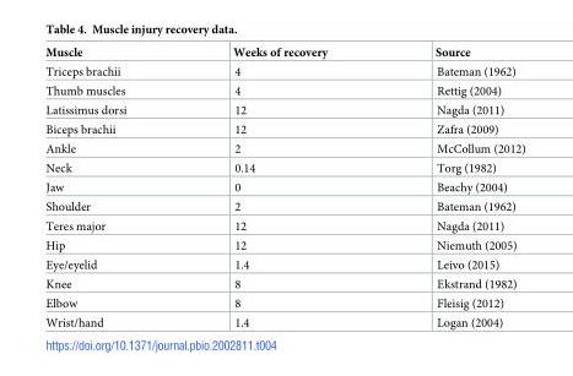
<table><thead><tr><td>Muscle</td><td>Weeks of recovery</td><td>Source</td></tr></thead><tbody><tr><td>Triceps brachii</td><td>4</td><td>Bateman (1962)</td></tr><tr><td>Thumb muscles</td><td>4</td><td>Rettig (2004)</td></tr><tr><td>Latissimus dorsi</td><td>12</td><td>Nagda (2011)</td></tr><tr><td>Biceps brachii</td><td>12</td><td>Zafra (2009)</td></tr><tr><td>Ankle</td><td>2</td><td>McCollum (2012)</td></tr><tr><td>Neck</td><td>0.14</td><td>Torg (1982)</td></tr><tr><td>Jaw</td><td>0</td><td>Beachy (2004)</td></tr><tr><td>Shoulder</td><td>2</td><td>Bateman (1962)</td></tr><tr><td>Teres major</td><td>12</td><td>Nagda (2011)</td></tr><tr><td>Hip</td><td>12</td><td>Niemuth (2005)</td></tr><tr><td>Eye/eyelid</td><td>1.4</td><td>Leivo (2015)</td></tr><tr><td>Knee</td><td>8</td><td>Ekstrand (1982)</td></tr><tr><td>Elbow</td><td>8</td><td>Fleisig (2012)</td></tr><tr><td>Wrist/hand</td><td>1.4</td><td>Logan (2004)</td></tr></tbody></table>